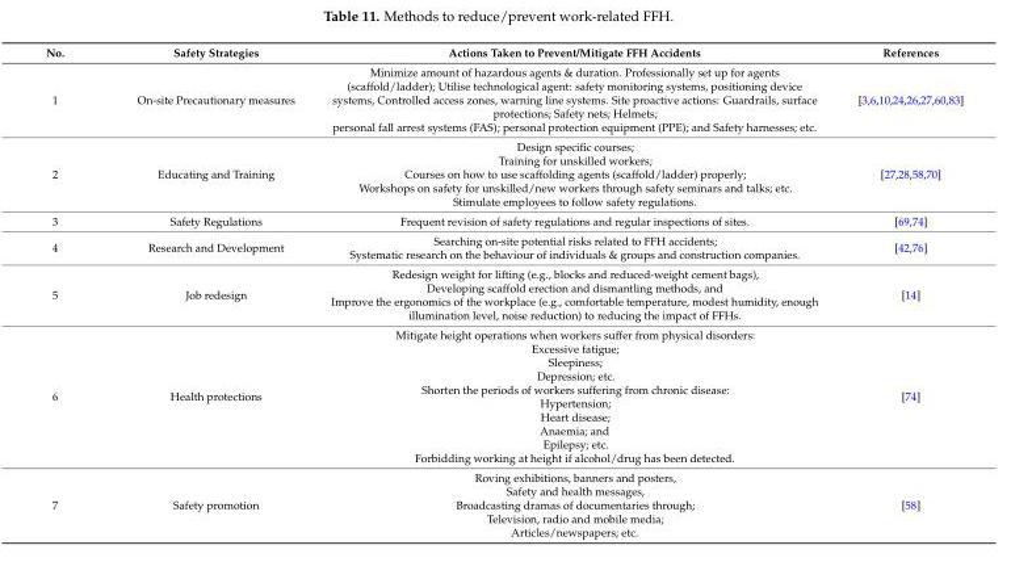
<table><thead><tr><td>No.</td><td>Safety Strategies</td><td>Actions Taken to Prevent/Mitigate FFH Accidents</td><td>References</td></tr></thead><tbody><tr><td>1</td><td>On-site Precautionary measures</td><td>Minimize amount of hazardous agents &amp; duration. Professionally set up for agents (scaffold/ladder); Utilise technological agent: safety monitoring systems, positioning device systems, Controlled access zones, warning line systems. Site proactive actions: Guardrails, surface protections; Safety nets; Helmets; personal fall arrest systems (FAS); personal protection equipment (PPE); and Safety harnesses; etc.</td><td>[3,6,10,24,26,27,60,83]</td></tr><tr><td>2</td><td>Educating and Training</td><td>Design specific courses; Training for unskilled workers; Courses on how to use scaffolding agents (scaffold/ladder) properly; Workshops on safety for unskilled/new workers through safety seminars and talks; etc. Stimulate employees to follow safety regulations.</td><td>[27,28,58,70]</td></tr><tr><td>3</td><td>Safety Regulations</td><td>Frequent revision of safety regulations and regular inspections of sites.</td><td>[69,74]</td></tr><tr><td>4</td><td>Research and Development</td><td>Searching on-site potential risks related to FFH accidents; Systematic research on the behaviour of individuals &amp; groups and construction companies.</td><td>[42,76]</td></tr><tr><td>5</td><td>Job redesign</td><td>Redesign weight for lifting (e.g., blocks and reduced-weight cement bags), Developing scaffold erection and dismantling methods, and Improve the ergonomics of the workplace (e.g., comfortable temperature, modest humidity, enough illumination level, noise reduction) to reducing the impact of FFHs.</td><td>[14]</td></tr><tr><td>6</td><td>Health protections</td><td>Mitigate height operations when workers suffer from physical disorders: Excessive fatigue; Sleepiness; Depression; etc. Shorten the periods of workers suffering from chronic disease: Hypertension; Heart disease; Anaemia; and Epilepsy; etc. Forbidding working at height if alcohol/drug has been detected.</td><td>[74]</td></tr><tr><td>7</td><td>Safety promotion</td><td>Roving exhibitions, banners and posters, Safety and health messages, Broadcasting dramas of documentaries through; Television, radio and mobile media; Articles/newspapers; etc.</td><td>[58]</td></tr></tbody></table>